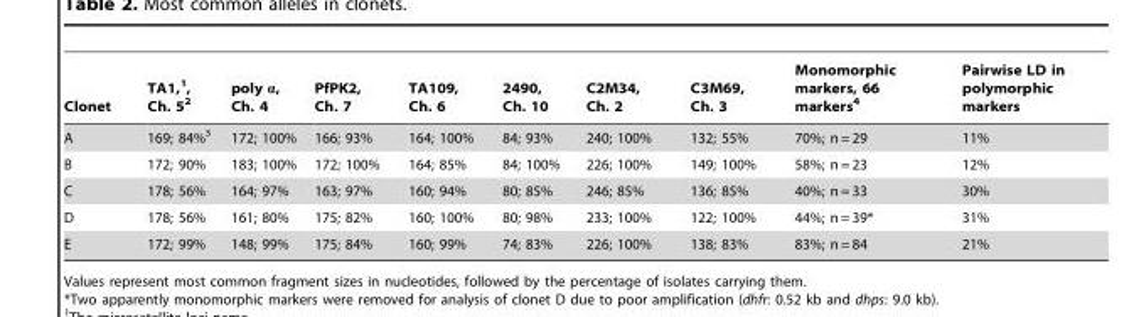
<table><thead><tr><td>Clonet</td><td>TA1,<sup>1</sup>, Ch. 5<sup>2</sup></td><td>poly α, Ch. 4</td><td>PfPK2, Ch. 7</td><td>TA109, Ch. 6</td><td>2490, Ch. 10</td><td>C2M34, Ch. 2</td><td>C3M69, Ch. 3</td><td>Monomorphic markers, 66 markers<sup>4</sup></td><td>Pairwise LD in polymorphic markers</td></tr></thead><tbody><tr><td>A</td><td>169; 84%<sup>3</sup></td><td>172; 100%</td><td>166; 93%</td><td>164; 100%</td><td>84; 93%</td><td>240; 100%</td><td>132; 55%</td><td>70%; n = 29</td><td>11%</td></tr><tr><td>B</td><td>172; 90%</td><td>183; 100%</td><td>172; 100%</td><td>164; 85%</td><td>84; 100%</td><td>226; 100%</td><td>149; 100%</td><td>58%; n = 23</td><td>12%</td></tr><tr><td>C</td><td>178; 56%</td><td>164; 97%</td><td>163; 97%</td><td>160; 94%</td><td>80; 85%</td><td>246; 85%</td><td>136; 85%</td><td>40%; n = 33</td><td>30%</td></tr><tr><td>D</td><td>178; 56%</td><td>161; 80%</td><td>175; 82%</td><td>160; 100%</td><td>80; 98%</td><td>233; 100%</td><td>122; 100%</td><td>44%; n = 39*</td><td>31%</td></tr><tr><td>E</td><td>172; 99%</td><td>148; 99%</td><td>175; 84%</td><td>160; 99%</td><td>74; 83%</td><td>226; 100%</td><td>138; 83%</td><td>83%; n = 84</td><td>21%</td></tr></tbody></table>